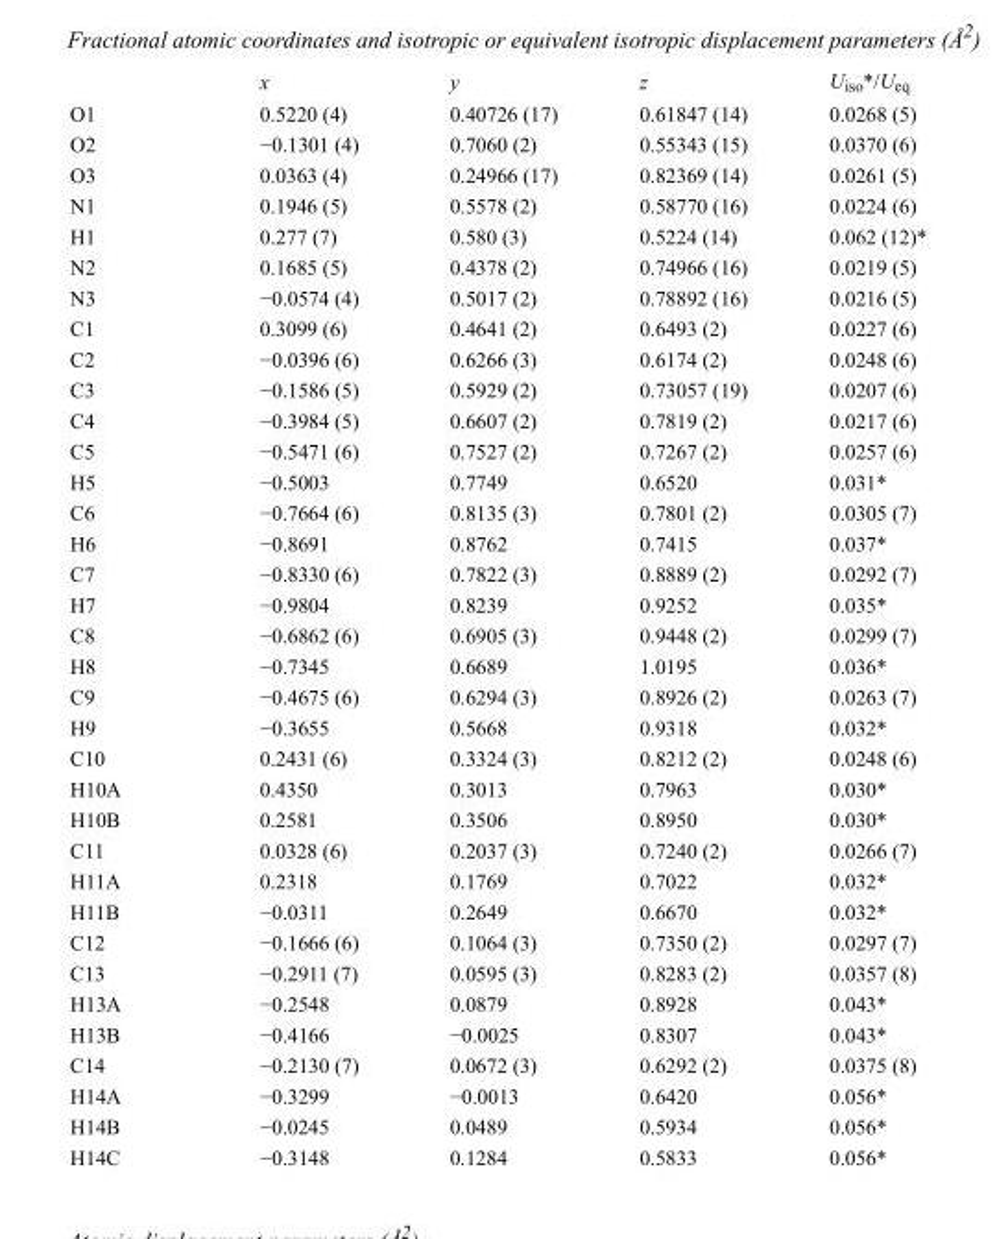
<table><thead><tr><td></td><td>x</td><td>y</td><td>z</td><td>U<sub>iso</sub>*/U<sub>eq</sub></td></tr></thead><tbody><tr><td>O1</td><td>0.5220 (4)</td><td>0.40726 (17)</td><td>0.61847 (14)</td><td>0.0268 (5)</td></tr><tr><td>O2</td><td>−0.1301 (4)</td><td>0.7060 (2)</td><td>0.55343 (15)</td><td>0.0370 (6)</td></tr><tr><td>O3</td><td>0.0363 (4)</td><td>0.24966 (17)</td><td>0.82369 (14)</td><td>0.0261 (5)</td></tr><tr><td>N1</td><td>0.1946 (5)</td><td>0.5578 (2)</td><td>0.58770 (16)</td><td>0.0224 (6)</td></tr><tr><td>H1</td><td>0.277 (7)</td><td>0.580 (3)</td><td>0.5224 (14)</td><td>0.062 (12)*</td></tr><tr><td>N2</td><td>0.1685 (5)</td><td>0.4378 (2)</td><td>0.74966 (16)</td><td>0.0219 (5)</td></tr><tr><td>N3</td><td>−0.0574 (4)</td><td>0.5017 (2)</td><td>0.78892 (16)</td><td>0.0216 (5)</td></tr><tr><td>C1</td><td>0.3099 (6)</td><td>0.4641 (2)</td><td>0.6493 (2)</td><td>0.0227 (6)</td></tr><tr><td>C2</td><td>−0.0396 (6)</td><td>0.6266 (3)</td><td>0.6174 (2)</td><td>0.0248 (6)</td></tr><tr><td>C3</td><td>−0.1586 (5)</td><td>0.5929 (2)</td><td>0.73057 (19)</td><td>0.0207 (6)</td></tr><tr><td>C4</td><td>−0.3984 (5)</td><td>0.6607 (2)</td><td>0.7819 (2)</td><td>0.0217 (6)</td></tr><tr><td>C5</td><td>−0.5471 (6)</td><td>0.7527 (2)</td><td>0.7267 (2)</td><td>0.0257 (6)</td></tr><tr><td>H5</td><td>−0.5003</td><td>0.7749</td><td>0.6520</td><td>0.031*</td></tr><tr><td>C6</td><td>−0.7664 (6)</td><td>0.8135 (3)</td><td>0.7801 (2)</td><td>0.0305 (7)</td></tr><tr><td>H6</td><td>−0.8691</td><td>0.8762</td><td>0.7415</td><td>0.037*</td></tr><tr><td>C7</td><td>−0.8330 (6)</td><td>0.7822 (3)</td><td>0.8889 (2)</td><td>0.0292 (7)</td></tr><tr><td>H7</td><td>−0.9804</td><td>0.8239</td><td>0.9252</td><td>0.035*</td></tr><tr><td>C8</td><td>−0.6862 (6)</td><td>0.6905 (3)</td><td>0.9448 (2)</td><td>0.0299 (7)</td></tr><tr><td>H8</td><td>−0.7345</td><td>0.6689</td><td>1.0195</td><td>0.036*</td></tr><tr><td>C9</td><td>−0.4675 (6)</td><td>0.6294 (3)</td><td>0.8926 (2)</td><td>0.0263 (7)</td></tr><tr><td>H9</td><td>−0.3655</td><td>0.5668</td><td>0.9318</td><td>0.032*</td></tr><tr><td>C10</td><td>0.2431 (6)</td><td>0.3324 (3)</td><td>0.8212 (2)</td><td>0.0248 (6)</td></tr><tr><td>H10A</td><td>0.4350</td><td>0.3013</td><td>0.7963</td><td>0.030*</td></tr><tr><td>H10B</td><td>0.2581</td><td>0.3506</td><td>0.8950</td><td>0.030*</td></tr><tr><td>C11</td><td>0.0328 (6)</td><td>0.2037 (3)</td><td>0.7240 (2)</td><td>0.0266 (7)</td></tr><tr><td>H11A</td><td>0.2318</td><td>0.1769</td><td>0.7022</td><td>0.032*</td></tr><tr><td>H11B</td><td>−0.0311</td><td>0.2649</td><td>0.6670</td><td>0.032*</td></tr><tr><td>C12</td><td>−0.1666 (6)</td><td>0.1064 (3)</td><td>0.7350 (2)</td><td>0.0297 (7)</td></tr><tr><td>C13</td><td>−0.2911 (7)</td><td>0.0595 (3)</td><td>0.8283 (2)</td><td>0.0357 (8)</td></tr><tr><td>H13A</td><td>−0.2548</td><td>0.0879</td><td>0.8928</td><td>0.043*</td></tr><tr><td>H13B</td><td>−0.4166</td><td>−0.0025</td><td>0.8307</td><td>0.043*</td></tr><tr><td>C14</td><td>−0.2130 (7)</td><td>0.0672 (3)</td><td>0.6292 (2)</td><td>0.0375 (8)</td></tr><tr><td>H14A</td><td>−0.3299</td><td>−0.0013</td><td>0.6420</td><td>0.056*</td></tr><tr><td>H14B</td><td>−0.0245</td><td>0.0489</td><td>0.5934</td><td>0.056*</td></tr><tr><td>H14C</td><td>−0.3148</td><td>0.1284</td><td>0.5833</td><td>0.056*</td></tr></tbody></table>